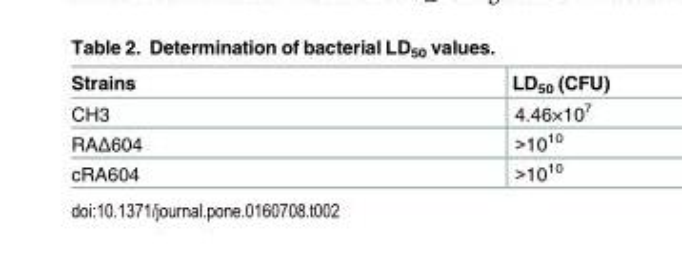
<table><thead><tr><td>Strains</td><td>LD<sub>50</sub> (CFU)</td></tr></thead><tbody><tr><td>CH3</td><td>4.46×10<sup>7</sup></td></tr><tr><td>RAΔ604</td><td>&gt;10<sup>10</sup></td></tr><tr><td>cRA604</td><td>&gt;10<sup>10</sup></td></tr></tbody></table>